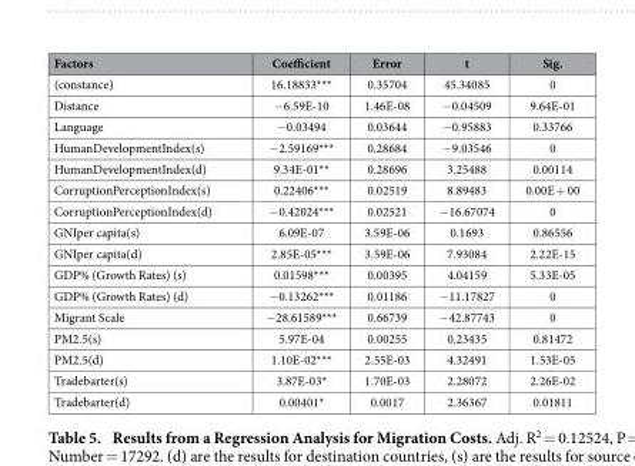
<table><thead><tr><td>Factors</td><td>Coefficient</td><td>Error</td><td>t</td><td>Sig.</td></tr></thead><tbody><tr><td>(constance)</td><td>16.18833***</td><td>0.35704</td><td>45.34085</td><td>0</td></tr><tr><td>Distance</td><td>− 6.59E-10</td><td>1.46E-08</td><td>− 0.04509</td><td>9.64E-01</td></tr><tr><td>Language</td><td>− 0.03494</td><td>0.03644</td><td>− 0.95883</td><td>0.33766</td></tr><tr><td>HumanDevelopmentIndex(s)</td><td>− 2.59169***</td><td>0.28684</td><td>− 9.03546</td><td>0</td></tr><tr><td>HumanDevelopmentIndex(d)</td><td>9.34E-01**</td><td>0.28696</td><td>3.25488</td><td>0.00114</td></tr><tr><td>CorruptionPerceptionIndex(s)</td><td>0.22406***</td><td>0.02519</td><td>8.89483</td><td>0.00E + 00</td></tr><tr><td>CorruptionPerceptionIndex(d)</td><td>− 0.42024***</td><td>0.02521</td><td>− 16.67074</td><td>0</td></tr><tr><td>GNIper capita(s)</td><td>6.09E-07</td><td>3.59E-06</td><td>0.1693</td><td>0.86556</td></tr><tr><td>GNIper capita(d)</td><td>2.85E-05***</td><td>3.59E-06</td><td>7.93084</td><td>2.22E-15</td></tr><tr><td>GDP% (Growth Rates) (s)</td><td>0.01598***</td><td>0.00395</td><td>4.04159</td><td>5.33E-05</td></tr><tr><td>GDP% (Growth Rates) (d)</td><td>− 0.13262***</td><td>0.01186</td><td>− 11.17827</td><td>0</td></tr><tr><td>Migrant Scale</td><td>− 28.61589***</td><td>0.66739</td><td>− 42.87743</td><td>0</td></tr><tr><td>PM2.5(s)</td><td>5.97E-04</td><td>0.00255</td><td>0.23435</td><td>0.81472</td></tr><tr><td>PM2.5(d)</td><td>1.10E-02***</td><td>2.55E-03</td><td>4.32491</td><td>1.53E-05</td></tr><tr><td>Tradebarter(s)</td><td>3.87E-03*</td><td>1.70E-03</td><td>2.28072</td><td>2.26E-02</td></tr><tr><td>Tradebarter(d)</td><td>0.00401*</td><td>0.0017</td><td>2.36367</td><td>0.01811</td></tr></tbody></table>